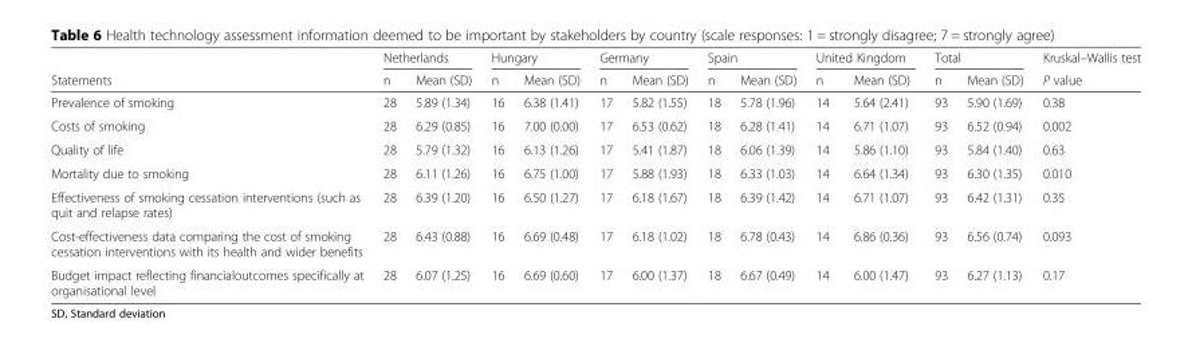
<table><thead><tr><td rowspan="2">Statements</td><td colspan="2">Netherlands</td><td colspan="2">Hungary</td><td colspan="2">Germany</td><td colspan="2">Spain</td><td colspan="2">United Kingdom</td><td colspan="2">Total</td><td rowspan="2">Kruskal–Wallis test P value</td></tr><tr><td>n</td><td>Mean (SD)</td><td>n</td><td>Mean (SD)</td><td>n</td><td>Mean (SD)</td><td>n</td><td>Mean (SD)</td><td>n</td><td>Mean (SD)</td><td>n</td><td>Mean (SD)</td></tr></thead><tbody><tr><td>Prevalence of smoking</td><td>28</td><td>5.89 (1.34)</td><td>16</td><td>6.38 (1.41)</td><td>17</td><td>5.82 (1.55)</td><td>18</td><td>5.78 (1.96)</td><td>14</td><td>5.64 (2.41)</td><td>93</td><td>5.90 (1.69)</td><td>0.38</td></tr><tr><td>Costs of smoking</td><td>28</td><td>6.29 (0.85)</td><td>16</td><td>7.00 (0.00)</td><td>17</td><td>6.53 (0.62)</td><td>18</td><td>6.28 (1.41)</td><td>14</td><td>6.71 (1.07)</td><td>93</td><td>6.52 (0.94)</td><td>0.002</td></tr><tr><td>Quality of life</td><td>28</td><td>5.79 (1.32)</td><td>16</td><td>6.13 (1.26)</td><td>17</td><td>5.41 (1.87)</td><td>18</td><td>6.06 (1.39)</td><td>14</td><td>5.86 (1.10)</td><td>93</td><td>5.84 (1.40)</td><td>0.63</td></tr><tr><td>Mortality due to smoking</td><td>28</td><td>6.11 (1.26)</td><td>16</td><td>6.75 (1.00)</td><td>17</td><td>5.88 (1.93)</td><td>18</td><td>6.33 (1.03)</td><td>14</td><td>6.64 (1.34)</td><td>93</td><td>6.30 (1.35)</td><td>0.010</td></tr><tr><td>Effectiveness of smoking cessation interventions (such as quit and relapse rates)</td><td>28</td><td>6.39 (1.20)</td><td>16</td><td>6.50 (1.27)</td><td>17</td><td>6.18 (1.67)</td><td>18</td><td>6.39 (1.42)</td><td>14</td><td>6.71 (1.07)</td><td>93</td><td>6.42 (1.31)</td><td>0.35</td></tr><tr><td>Cost-effectiveness data comparing the cost of smoking cessation interventions with its health and wider benefits</td><td>28</td><td>6.43 (0.88)</td><td>16</td><td>6.69 (0.48)</td><td>17</td><td>6.18 (1.02)</td><td>18</td><td>6.78 (0.43)</td><td>14</td><td>6.86 (0.36)</td><td>93</td><td>6.56 (0.74)</td><td>0.093</td></tr><tr><td>Budget impact reflecting financialoutcomes specifically at organisational level</td><td>28</td><td>6.07 (1.25)</td><td>16</td><td>6.69 (0.60)</td><td>17</td><td>6.00 (1.37)</td><td>18</td><td>6.67 (0.49)</td><td>14</td><td>6.00 (1.47)</td><td>93</td><td>6.27 (1.13)</td><td>0.17</td></tr></tbody></table>